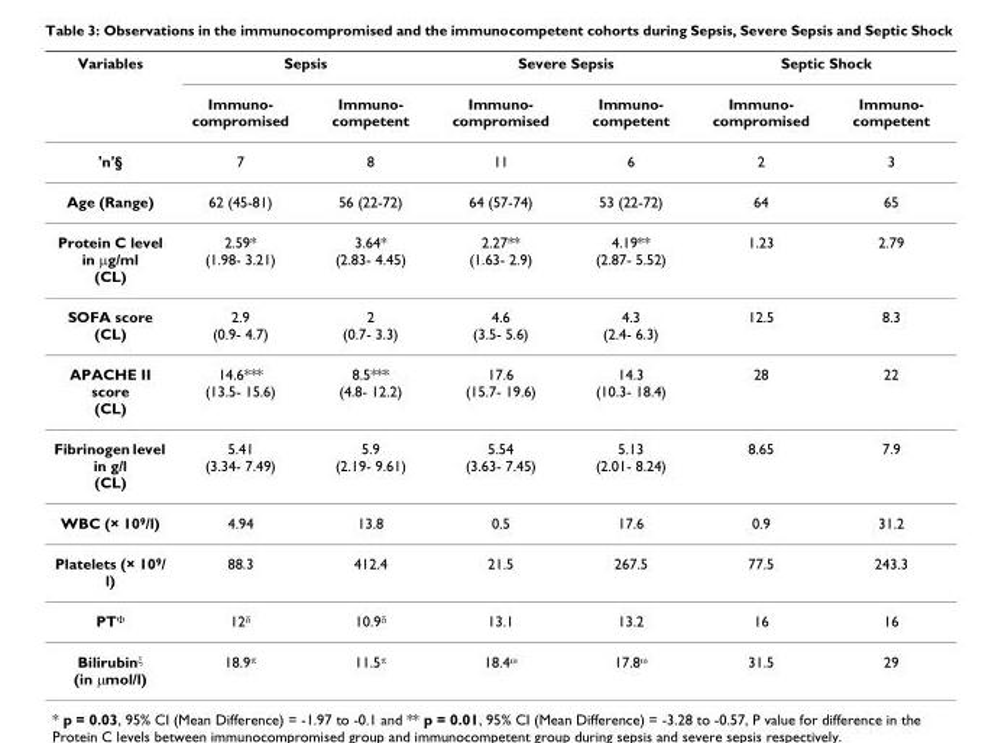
<table><thead><tr><td rowspan="2">Variables</td><td colspan="2">Sepsis</td><td colspan="2">Severe Sepsis</td><td colspan="2">Septic Shock</td></tr><tr><td>Immuno- compromised</td><td>Immuno- competent</td><td>Immuno- compromised</td><td>Immuno- competent</td><td>Immuno- compromised</td><td>Immuno- competent</td></tr></thead><tbody><tr><td>&#x27;n&#x27;§</td><td>7</td><td>8</td><td>11</td><td>6</td><td>2</td><td>3</td></tr><tr><td>Age (Range)</td><td>62 (45-81)</td><td>56 (22-72)</td><td>64 (57-74)</td><td>53 (22-72)</td><td>64</td><td>65</td></tr><tr><td>Protein C level in μg/ml (CL)</td><td>2.59* (1.98- 3.21)</td><td>3.64* (2.83- 4.45)</td><td>2.27** (1.63- 2.9)</td><td>4.19** (2.87- 5.52)</td><td>1.23</td><td>2.79</td></tr><tr><td>SOFA score (CL)</td><td>2.9 (0.9- 4.7)</td><td>2 (0.7- 3.3)</td><td>4.6 (3.5- 5.6)</td><td>4.3 (2.4- 6.3)</td><td>12.5</td><td>8.3</td></tr><tr><td>APACHE II score (CL)</td><td>14.6*** (13.5- 15.6)</td><td>8.5*** (4.8- 12.2)</td><td>17.6 (15.7- 19.6)</td><td>14.3 (10.3- 18.4)</td><td>28</td><td>22</td></tr><tr><td>Fibrinogen level in g/l (CL)</td><td>5.41 (3.34- 7.49)</td><td>5.9 (2.19- 9.61)</td><td>5.54 (3.63- 7.45)</td><td>5.13 (2.01- 8.24)</td><td>8.65</td><td>7.9</td></tr><tr><td>WBC (× 10<sup>9</sup>/l)</td><td>4.94</td><td>13.8</td><td>0.5</td><td>17.6</td><td>0.9</td><td>31.2</td></tr><tr><td>Platelets (× 10<sup>9</sup>/ l)</td><td>88.3</td><td>412.4</td><td>21.5</td><td>267.5</td><td>77.5</td><td>243.3</td></tr><tr><td>PT<sup>Φ</sup></td><td>12<sup>δ</sup></td><td>10.9<sup>δ</sup></td><td>13.1</td><td>13.2</td><td>16</td><td>16</td></tr><tr><td>Bilirubin<sup>ξ</sup> (in μmol/l)</td><td>18.9<sup>π</sup></td><td>11.5<sup>π</sup></td><td>18.4<sup>ω</sup></td><td>17.8<sup>ω</sup></td><td>31.5</td><td>29</td></tr></tbody></table>